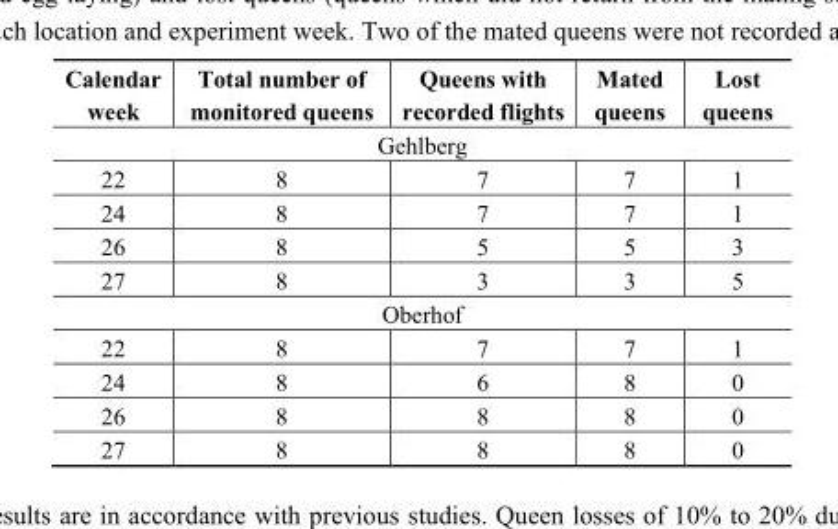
<table><thead><tr><td>Calendar week</td><td>Total number of monitored queens</td><td>Queens with recorded flights</td><td>Mated queens</td><td>Lost queens</td></tr></thead><tbody><tr><td colspan="5">Gehlberg</td></tr><tr><td>22</td><td>8</td><td>7</td><td>7</td><td>1</td></tr><tr><td>24</td><td>8</td><td>7</td><td>7</td><td>1</td></tr><tr><td>26</td><td>8</td><td>5</td><td>5</td><td>3</td></tr><tr><td>27</td><td>8</td><td>3</td><td>3</td><td>5</td></tr><tr><td colspan="5">Oberhof</td></tr><tr><td>22</td><td>8</td><td>7</td><td>7</td><td>1</td></tr><tr><td>24</td><td>8</td><td>6</td><td>8</td><td>0</td></tr><tr><td>26</td><td>8</td><td>8</td><td>8</td><td>0</td></tr><tr><td>27</td><td>8</td><td>8</td><td>8</td><td>0</td></tr></tbody></table>